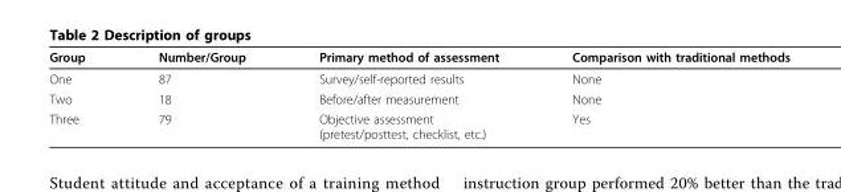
<table><thead><tr><td>Group</td><td>Number/Group</td><td>Primary method of assessment</td><td>Comparison with traditional methods</td></tr></thead><tbody><tr><td>One</td><td>87</td><td>Survey/self-reported results</td><td>None</td></tr><tr><td>Two</td><td>18</td><td>Before/after measurement</td><td>None</td></tr><tr><td>Three</td><td>79</td><td>Objective assessment (pretest/posttest, checklist, etc.)</td><td>Yes</td></tr></tbody></table>